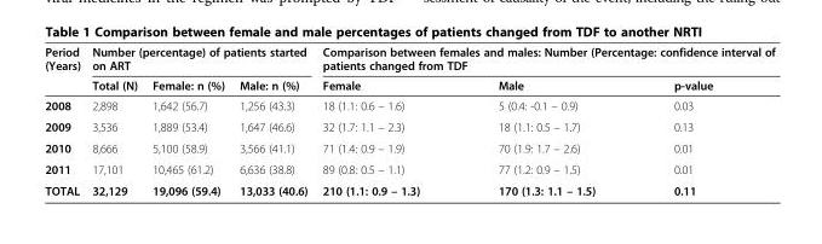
<table><thead><tr><td rowspan="2">Period (Years)</td><td colspan="3">Number (percentage) of patients started on ART</td><td colspan="3">Comparison between females and males: Number (Percentage: confidence interval of patients changed from TDF</td></tr><tr><td>Total (N)</td><td>Female: n (%)</td><td>Male: n (%)</td><td>Female</td><td>Male</td><td>p-value</td></tr></thead><tbody><tr><td>2008</td><td>2,898</td><td>1,642 (56.7)</td><td>1,256 (43.3)</td><td>18 (1.1: 0.6 – 1.6)</td><td>5 (0.4: -0.1 – 0.9)</td><td>0.03</td></tr><tr><td>2009</td><td>3,536</td><td>1,889 (53.4)</td><td>1,647 (46.6)</td><td>32 (1.7: 1.1 – 2.3)</td><td>18 (1.1: 0.5 – 1.7)</td><td>0.13</td></tr><tr><td>2010</td><td>8,666</td><td>5,100 (58.9)</td><td>3,566 (41.1)</td><td>71 (1.4: 0.9 – 1.9)</td><td>70 (1.9: 1.7 – 2.6)</td><td>0.01</td></tr><tr><td>2011</td><td>17,101</td><td>10,465 (61.2)</td><td>6,636 (38.8)</td><td>89 (0.8: 0.5 – 1.1)</td><td>77 (1.2: 0.9 – 1.5)</td><td>0.01</td></tr><tr><td>TOTAL</td><td>32,129</td><td>19,096 (59.4)</td><td>13,033 (40.6)</td><td>210 (1.1: 0.9 – 1.3)</td><td>170 (1.3: 1.1 – 1.5)</td><td>0.11</td></tr></tbody></table>